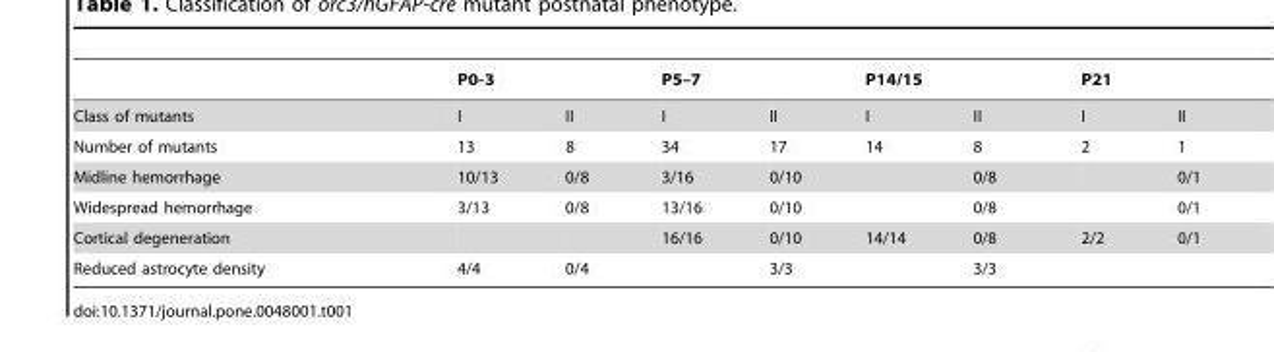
<table><thead><tr><td rowspan="2">Class of mutants</td><td colspan="2">P0-3</td><td colspan="2">P5–7</td><td colspan="2">P14/15</td><td colspan="2">P21</td></tr><tr><td>I</td><td>II</td><td>I</td><td>II</td><td>I</td><td>II</td><td>I</td><td>II</td></tr></thead><tbody><tr><td>Number of mutants</td><td>13</td><td>8</td><td>34</td><td>17</td><td>14</td><td>8</td><td>2</td><td>1</td></tr><tr><td>Midline hemorrhage</td><td>10/13</td><td>0/8</td><td>3/16</td><td>0/10</td><td></td><td>0/8</td><td></td><td>0/1</td></tr><tr><td>Widespread hemorrhage</td><td>3/13</td><td>0/8</td><td>13/16</td><td>0/10</td><td></td><td>0/8</td><td></td><td>0/1</td></tr><tr><td>Cortical degeneration</td><td></td><td></td><td>16/16</td><td>0/10</td><td>14/14</td><td>0/8</td><td>2/2</td><td>0/1</td></tr><tr><td>Reduced astrocyte density</td><td>4/4</td><td>0/4</td><td></td><td>3/3</td><td></td><td>3/3</td><td></td><td></td></tr></tbody></table>